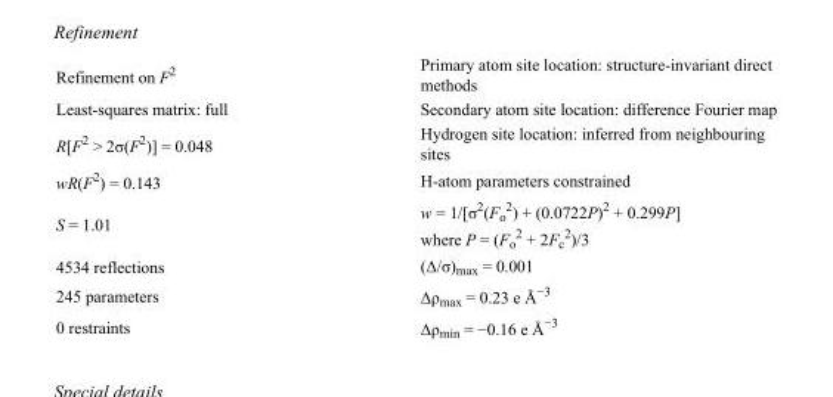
<table><tbody><tr><td>Refinement on F<sup>2</sup></td><td>Primary atom site location: structure-invariant direct methods</td></tr><tr><td>Least-squares matrix: full</td><td>Secondary atom site location: difference Fourier map</td></tr><tr><td>R[F<sup>2</sup> &gt; 2σ(F<sup>2</sup>)] = 0.048</td><td>Hydrogen site location: inferred from neighbouring sites</td></tr><tr><td>wR(F<sup>2</sup>) = 0.143</td><td>H-atom parameters constrained</td></tr><tr><td>S = 1.01</td><td>w = 1/[σ<sup>2</sup>(F<sub>o</sub> <sup>2</sup>) + (0.0722P)<sup>2</sup> + 0.299P] where P = (F<sub>o</sub> <sup>2</sup> + 2F<sub>c</sub> <sup>2</sup>)/3</td></tr><tr><td>4534 reflections</td><td>(Δ/σ)<sub>max</sub> = 0.001</td></tr><tr><td>245 parameters</td><td>Δρ<sub>max</sub> = 0.23 e Å<sup>−3</sup></td></tr><tr><td>0 restraints</td><td>Δρ<sub>min</sub> = −0.16 e Å<sup>−3</sup></td></tr></tbody></table>